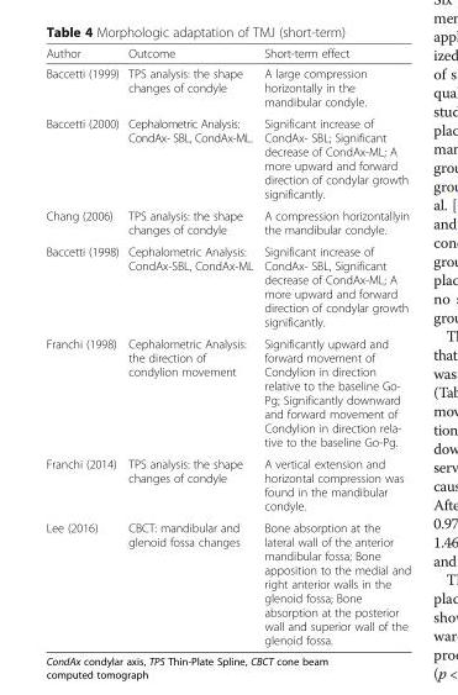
<table><thead><tr><td>Author</td><td>Outcome</td><td>Short-term effect</td></tr></thead><tbody><tr><td>Baccetti (1999)</td><td>TPS analysis: the shape changes of condyle</td><td>A large compression horizontally in the mandibular condyle.</td></tr><tr><td>Baccetti (2000)</td><td>Cephalometric Analysis: CondAx- SBL, CondAx-ML.</td><td>Significant increase of CondAx- SBL; Significant decrease of CondAx-ML; A more upward and forward direction of condylar growth significantly.</td></tr><tr><td>Chang (2006)</td><td>TPS analysis: the shape changes of condyle</td><td>A compression horizontallyin the mandibular condyle.</td></tr><tr><td>Baccetti (1998)</td><td>Cephalometric Analysis: CondAx-SBL, CondAx-ML</td><td>Significant increase of CondAx- SBL, Significant decrease of CondAx-ML; A more upward and forward direction of condylar growth significantly.</td></tr><tr><td>Franchi (1998)</td><td>Cephalometric Analysis: the direction of condylion movement</td><td>Significantly upward and forward movement of Condylion in direction relative to the baseline Go- Pg; Significantly downward and forward movement of Condylion in direction rela- tive to the baseline Go-Pg.</td></tr><tr><td>Franchi (2014)</td><td>TPS analysis: the shape changes of condyle</td><td>A vertical extension and horizontal compression was found in the mandibular condyle.</td></tr><tr><td>Lee (2016)</td><td>CBCT: mandibular and glenoid fossa changes</td><td>Bone absorption at the lateral wall of the anterior mandibular fossa; Bone apposition to the medial and right anterior walls in the glenoid fossa; Bone absorption at the posterior wall and superior wall of the glenoid fossa.</td></tr></tbody></table>